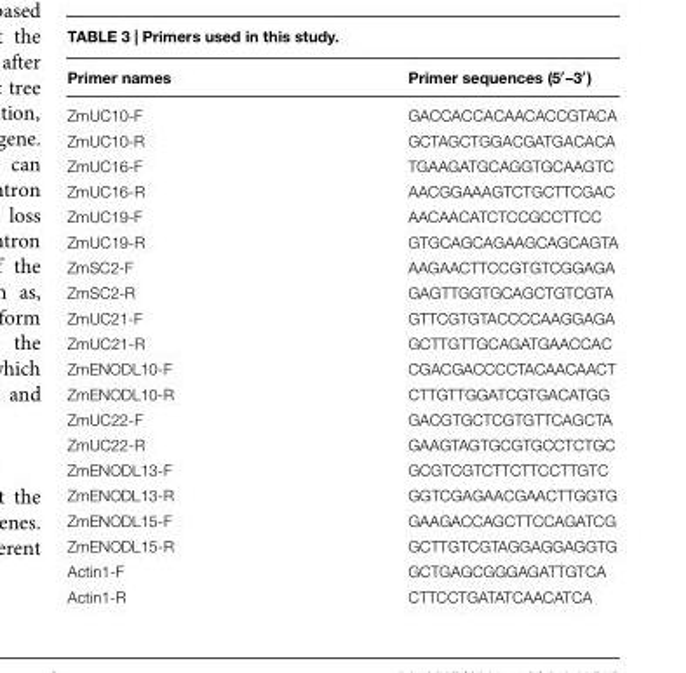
<table><thead><tr><td>Primer names</td><td>Primer sequences (5′–3′)</td></tr></thead><tbody><tr><td>ZmUC10-F</td><td>GACCACCACAACACCGTACA</td></tr><tr><td>ZmUC10-R</td><td>GCTAGCTGGACGATGACACA</td></tr><tr><td>ZmUC16-F</td><td>TGAAGATGCAGGTGCAAGTC</td></tr><tr><td>ZmUC16-R</td><td>AACGGAAAGTCTGCTTCGAC</td></tr><tr><td>ZmUC19-F</td><td>AACAACATCTCCGCCTTCC</td></tr><tr><td>ZmUC19-R</td><td>GTGCAGCAGAAGCAGCAGTA</td></tr><tr><td>ZmSC2-F</td><td>AAGAACTTCCGTGTCGGAGA</td></tr><tr><td>ZmSC2-R</td><td>GAGTTGGTGCAGCTGTCGTA</td></tr><tr><td>ZmUC21-F</td><td>GTTCGTGTACCCCAAGGAGA</td></tr><tr><td>ZmUC21-R</td><td>GCTTGTTGCAGATGAACCAC</td></tr><tr><td>ZmENODL10-F</td><td>CGACGACCCCTACAACAACT</td></tr><tr><td>ZmENODL10-R</td><td>CTTGTTGGATCGTGACATGG</td></tr><tr><td>ZmUC22-F</td><td>GACGTGCTCGTGTTCAGCTA</td></tr><tr><td>ZmUC22-R</td><td>GAAGTAGTGCGTGCCTCTGC</td></tr><tr><td>ZmENODL13-F</td><td>GCGTCGTCTTCTTCCTTGTC</td></tr><tr><td>ZmENODL13-R</td><td>GGTCGAGAACGAACTTGGTG</td></tr><tr><td>ZmENODL15-F</td><td>GAAGACCAGCTTCCAGATCG</td></tr><tr><td>ZmENODL15-R</td><td>GCTTGTCGTAGGAGGAGGTG</td></tr><tr><td>Actin1-F</td><td>GCTGAGCGGGAGATTGTCA</td></tr><tr><td>Actin1-R</td><td>CTTCCTGATATCAACATCA</td></tr></tbody></table>